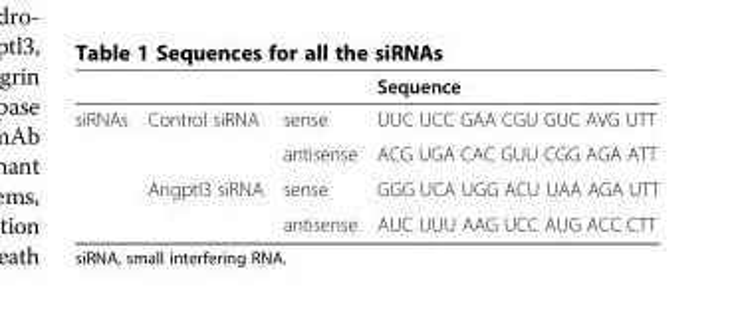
<table><thead><tr><td></td><td></td><td></td><td>Sequence</td></tr></thead><tbody><tr><td rowspan="4">siRNAs</td><td>Control siRNA</td><td>sense</td><td>UUC UCC GAA CGU GUC AVG UTT</td></tr><tr><td></td><td>antisense</td><td>ACG UGA CAC GUU CGG AGA ATT</td></tr><tr><td>Angptl3 siRNA</td><td>sense</td><td>GGG UCA UGG ACU UAA AGA UTT</td></tr><tr><td></td><td>antisense</td><td>AUC UUU AAG UCC AUG ACC CTT</td></tr></tbody></table>